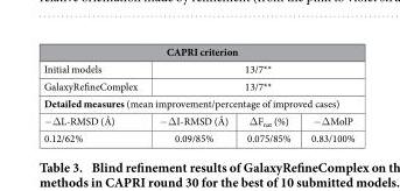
<table><thead><tr><td colspan="4">CAPRI criterion</td></tr></thead><tbody><tr><td>Initial models</td><td colspan="3">13/7**</td></tr><tr><td>GalaxyRefineComplex</td><td colspan="3">13/7**</td></tr><tr><td colspan="4">Detailed measures (mean improvement/percentage of improved cases)</td></tr><tr><td>−Δ L-RMSD (Å)</td><td>−Δ I-RMSD (Å)</td><td>Δ F<sub>nat</sub> (%)</td><td>−Δ MolP</td></tr><tr><td>0.12/62%</td><td>0.09/85%</td><td>0.075/85%</td><td>0.83/100%</td></tr></tbody></table>